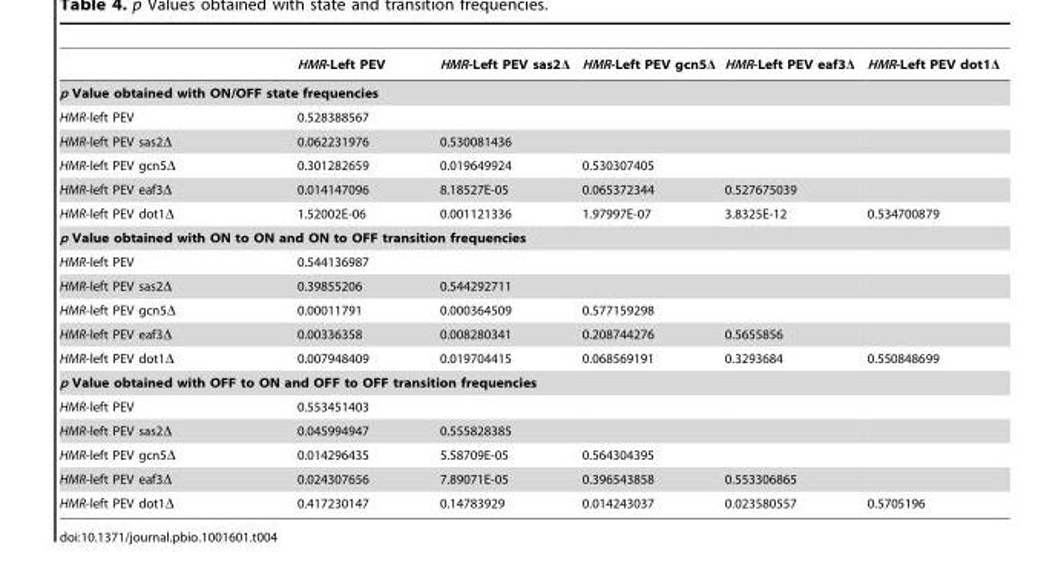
<table><thead><tr><td></td><td>HMR-Left PEV</td><td>HMR-Left PEV sas2Δ</td><td>HMR-Left PEV gcn5Δ</td><td>HMR-Left PEV eaf3Δ</td><td>HMR-Left PEV dot1Δ</td></tr></thead><tbody><tr><td colspan="6">p Value obtained with ON/OFF state frequencies</td></tr><tr><td>HMR-left PEV</td><td>0.528388567</td><td></td><td></td><td></td><td></td></tr><tr><td>HMR-left PEV sas2Δ</td><td>0.062231976</td><td>0.530081436</td><td></td><td></td><td></td></tr><tr><td>HMR-left PEV gcn5Δ</td><td>0.301282659</td><td>0.019649924</td><td>0.530307405</td><td></td><td></td></tr><tr><td>HMR-left PEV eaf3Δ</td><td>0.014147096</td><td>8.18527E-05</td><td>0.065372344</td><td>0.527675039</td><td></td></tr><tr><td>HMR-left PEV dot1Δ</td><td>1.52002E-06</td><td>0.001121336</td><td>1.97997E-07</td><td>3.8325E-12</td><td>0.534700879</td></tr><tr><td colspan="6">p Value obtained with ON to ON and ON to OFF transition frequencies</td></tr><tr><td>HMR-left PEV</td><td>0.544136987</td><td></td><td></td><td></td><td></td></tr><tr><td>HMR-left PEV sas2Δ</td><td>0.39855206</td><td>0.544292711</td><td></td><td></td><td></td></tr><tr><td>HMR-left PEV gcn5Δ</td><td>0.00011791</td><td>0.000364509</td><td>0.577159298</td><td></td><td></td></tr><tr><td>HMR-left PEV eaf3Δ</td><td>0.00336358</td><td>0.008280341</td><td>0.208744276</td><td>0.5655856</td><td></td></tr><tr><td>HMR-left PEV dot1Δ</td><td>0.007948409</td><td>0.019704415</td><td>0.068569191</td><td>0.3293684</td><td>0.550848699</td></tr><tr><td colspan="6">p Value obtained with OFF to ON and OFF to OFF transition frequencies</td></tr><tr><td>HMR-left PEV</td><td>0.553451403</td><td></td><td></td><td></td><td></td></tr><tr><td>HMR-left PEV sas2Δ</td><td>0.045994947</td><td>0.555828385</td><td></td><td></td><td></td></tr><tr><td>HMR-left PEV gcn5Δ</td><td>0.014296435</td><td>5.58709E-05</td><td>0.564304395</td><td></td><td></td></tr><tr><td>HMR-left PEV eaf3Δ</td><td>0.024307656</td><td>7.89071E-05</td><td>0.396543858</td><td>0.553306865</td><td></td></tr><tr><td>HMR-left PEV dot1Δ</td><td>0.417230147</td><td>0.14783929</td><td>0.014243037</td><td>0.023580557</td><td>0.5705196</td></tr></tbody></table>